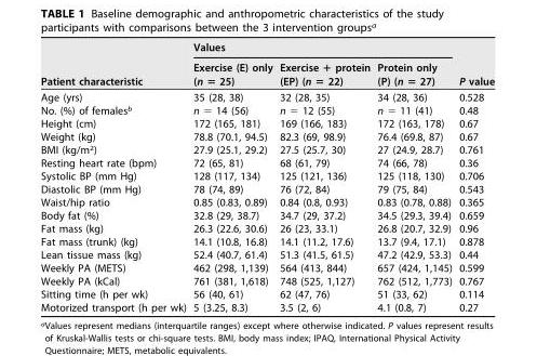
<table><thead><tr><td rowspan="2">Patient characteristic</td><td colspan="3">Values</td><td rowspan="2">P value</td></tr><tr><td>Exercise (E) only (n = 25)</td><td>Exercise + protein (EP) (n = 22)</td><td>Protein only (P) (n = 27)</td></tr></thead><tbody><tr><td>Age (yrs)</td><td>35 (28, 38)</td><td>32 (28, 35)</td><td>34 (28, 36)</td><td>0.528</td></tr><tr><td>No. (%) of females<sup>b</sup></td><td>n = 14 (56)</td><td>n = 12 (55)</td><td>n = 11 (41)</td><td>0.48</td></tr><tr><td>Height (cm)</td><td>172 (165, 181)</td><td>169 (166, 183)</td><td>172 (163, 178)</td><td>0.67</td></tr><tr><td>Weight (kg)</td><td>78.8 (70.1, 94.5)</td><td>82.3 (69, 98.9)</td><td>76.4 (69.8, 87)</td><td>0.67</td></tr><tr><td>BMI (kg/m<sup>2</sup>)</td><td>27.9 (25.1, 29.2)</td><td>27.5 (25.7, 30)</td><td>27 (24.9, 28.7)</td><td>0.761</td></tr><tr><td>Resting heart rate (bpm)</td><td>72 (65, 81)</td><td>68 (61, 79)</td><td>74 (66, 78)</td><td>0.36</td></tr><tr><td>Systolic BP (mm Hg)</td><td>128 (117, 134)</td><td>125 (121, 136)</td><td>125 (118, 130)</td><td>0.706</td></tr><tr><td>Diastolic BP (mm Hg)</td><td>78 (74, 89)</td><td>76 (72, 84)</td><td>79 (75, 84)</td><td>0.543</td></tr><tr><td>Waist/hip ratio</td><td>0.85 (0.83, 0.89)</td><td>0.84 (0.8, 0.93)</td><td>0.83 (0.78, 0.88)</td><td>0.365</td></tr><tr><td>Body fat (%)</td><td>32.8 (29, 38.7)</td><td>34.7 (29, 37.2)</td><td>34.5 (29.3, 39.4)</td><td>0.659</td></tr><tr><td>Fat mass (kg)</td><td>26.3 (22.6, 30.6)</td><td>26 (23, 33.1)</td><td>26.8 (20.7, 32.9)</td><td>0.96</td></tr><tr><td>Fat mass (trunk) (kg)</td><td>14.1 (10.8, 16.8)</td><td>14.1 (11.2, 17.6)</td><td>13.7 (9.4, 17.1)</td><td>0.878</td></tr><tr><td>Lean tissue mass (kg)</td><td>52.4 (40.7, 61.4)</td><td>51.3 (41.5, 61.5)</td><td>47.2 (42.9, 53.3)</td><td>0.44</td></tr><tr><td>Weekly PA (METS)</td><td>462 (298, 1,139)</td><td>564 (413, 844)</td><td>657 (424, 1,145)</td><td>0.599</td></tr><tr><td>Weekly PA (kCal)</td><td>761 (381, 1,618)</td><td>748 (525, 1,127)</td><td>762 (512, 1,773)</td><td>0.767</td></tr><tr><td>Sitting time (h per wk)</td><td>56 (40, 61)</td><td>62 (47, 76)</td><td>51 (33, 62)</td><td>0.114</td></tr><tr><td>Motorized transport (h per wk)</td><td>5 (3.25, 8.3)</td><td>3.5 (2, 6)</td><td>4.1 (0.8, 7)</td><td>0.27</td></tr></tbody></table>